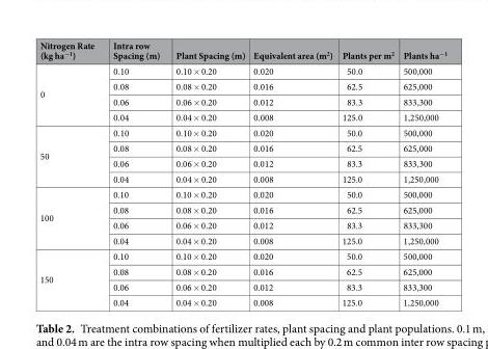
<table><thead><tr><td>Nitrogen Rate (kg ha<sup>−1</sup>)</td><td>Intra row Spacing (m)</td><td>Plant Spacing (m)</td><td>Equivalent area (m<sup>2</sup>)</td><td>Plants per m<sup>2</sup></td><td>Plants ha<sup>−1</sup></td></tr></thead><tbody><tr><td rowspan="4">0</td><td>0.10</td><td>0.10 × 0.20</td><td>0.020</td><td>50.0</td><td>500,000</td></tr><tr><td>0.08</td><td>0.08 × 0.20</td><td>0.016</td><td>62.5</td><td>625,000</td></tr><tr><td>0.06</td><td>0.06 × 0.20</td><td>0.012</td><td>83.3</td><td>833,300</td></tr><tr><td>0.04</td><td>0.04 × 0.20</td><td>0.008</td><td>125.0</td><td>1,250,000</td></tr><tr><td rowspan="4">50</td><td>0.10</td><td>0.10 × 0.20</td><td>0.020</td><td>50.0</td><td>500,000</td></tr><tr><td>0.08</td><td>0.08 × 0.20</td><td>0.016</td><td>62.5</td><td>625,000</td></tr><tr><td>0.06</td><td>0.06 × 0.20</td><td>0.012</td><td>83.3</td><td>833,300</td></tr><tr><td>0.04</td><td>0.04 × 0.20</td><td>0.008</td><td>125.0</td><td>1,250,000</td></tr><tr><td rowspan="4">100</td><td>0.10</td><td>0.10 × 0.20</td><td>0.020</td><td>50.0</td><td>500,000</td></tr><tr><td>0.08</td><td>0.08 × 0.20</td><td>0.016</td><td>62.5</td><td>625,000</td></tr><tr><td>0.06</td><td>0.06 × 0.20</td><td>0.012</td><td>83.3</td><td>833,300</td></tr><tr><td>0.04</td><td>0.04 × 0.20</td><td>0.008</td><td>125.0</td><td>1,250,000</td></tr><tr><td rowspan="4">150</td><td>0.10</td><td>0.10 × 0.20</td><td>0.020</td><td>50.0</td><td>500,000</td></tr><tr><td>0.08</td><td>0.08 × 0.20</td><td>0.016</td><td>62.5</td><td>625,000</td></tr><tr><td>0.06</td><td>0.06 × 0.20</td><td>0.012</td><td>83.3</td><td>833,300</td></tr><tr><td>0.04</td><td>0.04 × 0.20</td><td>0.008</td><td>125.0</td><td>1,250,000</td></tr></tbody></table>